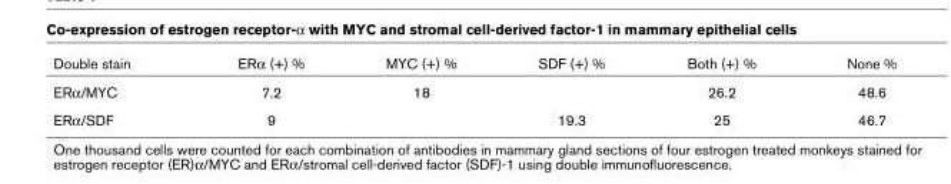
<table><thead><tr><td>Double stain</td><td>ERα (+) %</td><td>MYC (+) %</td><td>SDF (+) %</td><td>Both (+) %</td><td>None %</td></tr></thead><tbody><tr><td>ERα/MYC</td><td>7.2</td><td>18</td><td></td><td>26.2</td><td>48.6</td></tr><tr><td>ERα/SDF</td><td>9</td><td></td><td>19.3</td><td>25</td><td>46.7</td></tr></tbody></table>